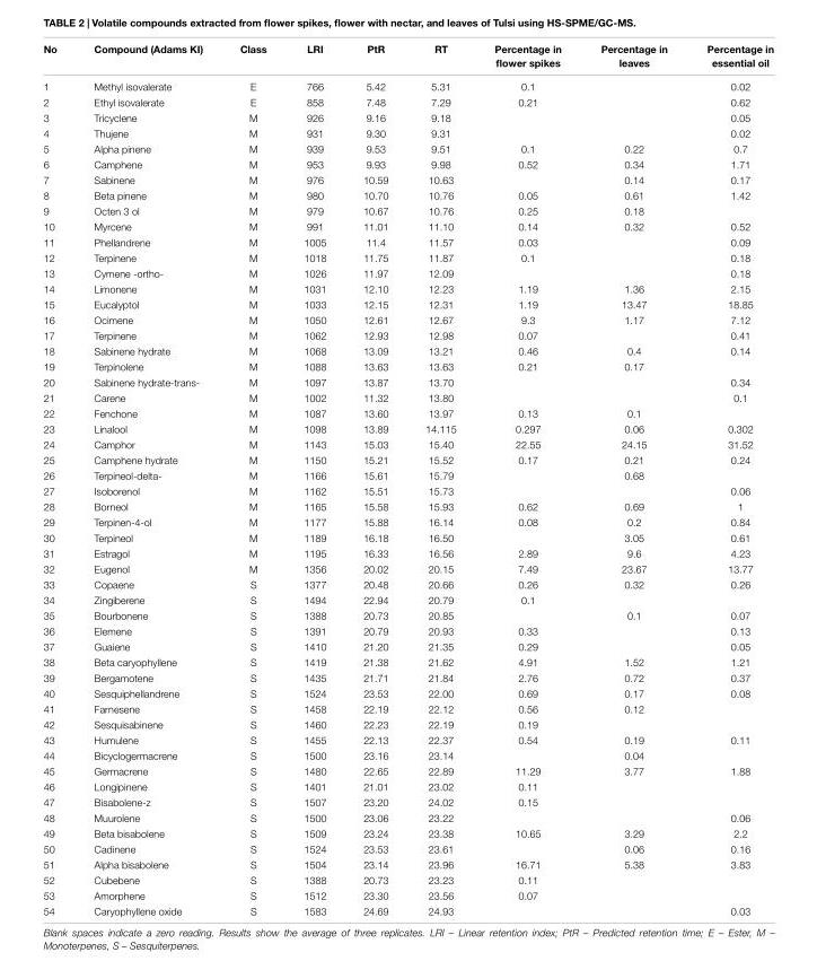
<table><thead><tr><td>No</td><td>Compound (Adams KI)</td><td>Class</td><td>LRI</td><td>PtR</td><td>RT</td><td>Percentage in flower spikes</td><td>Percentage in leaves</td><td>Percentage in essential oil</td></tr></thead><tbody><tr><td>1</td><td>Methyl isovalerate</td><td>E</td><td>766</td><td>5.42</td><td>5.31</td><td>0.1</td><td></td><td>0.02</td></tr><tr><td>2</td><td>Ethyl isovalerate</td><td>E</td><td>858</td><td>7.48</td><td>7.29</td><td>0.21</td><td></td><td>0.62</td></tr><tr><td>3</td><td>Tricyclene</td><td>M</td><td>926</td><td>9.16</td><td>9.18</td><td></td><td></td><td>0.05</td></tr><tr><td>4</td><td>Thujene</td><td>M</td><td>931</td><td>9.30</td><td>9.31</td><td></td><td></td><td>0.02</td></tr><tr><td>5</td><td>Alpha pinene</td><td>M</td><td>939</td><td>9.53</td><td>9.51</td><td>0.1</td><td>0.22</td><td>0.7</td></tr><tr><td>6</td><td>Camphene</td><td>M</td><td>953</td><td>9.93</td><td>9.98</td><td>0.52</td><td>0.34</td><td>1.71</td></tr><tr><td>7</td><td>Sabinene</td><td>M</td><td>976</td><td>10.59</td><td>10.63</td><td></td><td>0.14</td><td>0.17</td></tr><tr><td>8</td><td>Beta pinene</td><td>M</td><td>980</td><td>10.70</td><td>10.76</td><td>0.05</td><td>0.61</td><td>1.42</td></tr><tr><td>9</td><td>Octen 3 ol</td><td>M</td><td>979</td><td>10.67</td><td>10.76</td><td>0.25</td><td>0.18</td><td></td></tr><tr><td>10</td><td>Myrcene</td><td>M</td><td>991</td><td>11.01</td><td>11.10</td><td>0.14</td><td>0.32</td><td>0.52</td></tr><tr><td>11</td><td>Phellandrene</td><td>M</td><td>1005</td><td>11.4</td><td>11.57</td><td>0.03</td><td></td><td>0.09</td></tr><tr><td>12</td><td>Terpinene</td><td>M</td><td>1018</td><td>11.75</td><td>11.87</td><td>0.1</td><td></td><td>0.18</td></tr><tr><td>13</td><td>Cymene -ortho-</td><td>M</td><td>1026</td><td>11.97</td><td>12.09</td><td></td><td></td><td>0.18</td></tr><tr><td>14</td><td>Limonene</td><td>M</td><td>1031</td><td>12.10</td><td>12.23</td><td>1.19</td><td>1.36</td><td>2.15</td></tr><tr><td>15</td><td>Eucalyptol</td><td>M</td><td>1033</td><td>12.15</td><td>12.31</td><td>1.19</td><td>13.47</td><td>18.85</td></tr><tr><td>16</td><td>Ocimene</td><td>M</td><td>1050</td><td>12.61</td><td>12.67</td><td>9.3</td><td>1.17</td><td>7.12</td></tr><tr><td>17</td><td>Terpinene</td><td>M</td><td>1062</td><td>12.93</td><td>12.98</td><td>0.07</td><td></td><td>0.41</td></tr><tr><td>18</td><td>Sabinene hydrate</td><td>M</td><td>1068</td><td>13.09</td><td>13.21</td><td>0.46</td><td>0.4</td><td>0.14</td></tr><tr><td>19</td><td>Terpinolene</td><td>M</td><td>1088</td><td>13.63</td><td>13.63</td><td>0.21</td><td>0.17</td><td></td></tr><tr><td>20</td><td>Sabinene hydrate-trans-</td><td>M</td><td>1097</td><td>13.87</td><td>13.70</td><td></td><td></td><td>0.34</td></tr><tr><td>21</td><td>Carene</td><td>M</td><td>1002</td><td>11.32</td><td>13.80</td><td></td><td></td><td>0.1</td></tr><tr><td>22</td><td>Fenchone</td><td>M</td><td>1087</td><td>13.60</td><td>13.97</td><td>0.13</td><td>0.1</td><td></td></tr><tr><td>23</td><td>Linalool</td><td>M</td><td>1098</td><td>13.89</td><td>14.115</td><td>0.297</td><td>0.06</td><td>0.302</td></tr><tr><td>24</td><td>Camphor</td><td>M</td><td>1143</td><td>15.03</td><td>15.40</td><td>22.55</td><td>24.15</td><td>31.52</td></tr><tr><td>25</td><td>Camphene hydrate</td><td>M</td><td>1150</td><td>15.21</td><td>15.52</td><td>0.17</td><td>0.21</td><td>0.24</td></tr><tr><td>26</td><td>Terpineol-delta-</td><td>M</td><td>1166</td><td>15.61</td><td>15.79</td><td></td><td>0.68</td><td></td></tr><tr><td>27</td><td>Isoborenol</td><td>M</td><td>1162</td><td>15.51</td><td>15.73</td><td></td><td></td><td>0.06</td></tr><tr><td>28</td><td>Borneol</td><td>M</td><td>1165</td><td>15.58</td><td>15.93</td><td>0.62</td><td>0.69</td><td>1</td></tr><tr><td>29</td><td>Terpinen-4-ol</td><td>M</td><td>1177</td><td>15.88</td><td>16.14</td><td>0.08</td><td>0.2</td><td>0.84</td></tr><tr><td>30</td><td>Terpineol</td><td>M</td><td>1189</td><td>16.18</td><td>16.50</td><td></td><td>3.05</td><td>0.61</td></tr><tr><td>31</td><td>Estragol</td><td>M</td><td>1195</td><td>16.33</td><td>16.56</td><td>2.89</td><td>9.6</td><td>4.23</td></tr><tr><td>32</td><td>Eugenol</td><td>M</td><td>1356</td><td>20.02</td><td>20.15</td><td>7.49</td><td>23.67</td><td>13.77</td></tr><tr><td>33</td><td>Copaene</td><td>S</td><td>1377</td><td>20.48</td><td>20.66</td><td>0.26</td><td>0.32</td><td>0.26</td></tr><tr><td>34</td><td>Zingiberene</td><td>S</td><td>1494</td><td>22.94</td><td>20.79</td><td>0.1</td><td></td><td></td></tr><tr><td>35</td><td>Bourbonene</td><td>S</td><td>1388</td><td>20.73</td><td>20.85</td><td></td><td>0.1</td><td>0.07</td></tr><tr><td>36</td><td>Elemene</td><td>S</td><td>1391</td><td>20.79</td><td>20.93</td><td>0.33</td><td></td><td>0.13</td></tr><tr><td>37</td><td>Guaiene</td><td>S</td><td>1410</td><td>21.20</td><td>21.35</td><td>0.29</td><td></td><td>0.05</td></tr><tr><td>38</td><td>Beta caryophyllene</td><td>S</td><td>1419</td><td>21.38</td><td>21.62</td><td>4.91</td><td>1.52</td><td>1.21</td></tr><tr><td>39</td><td>Bergamotene</td><td>S</td><td>1435</td><td>21.71</td><td>21.84</td><td>2.76</td><td>0.72</td><td>0.37</td></tr><tr><td>40</td><td>Sesquiphellandrene</td><td>S</td><td>1524</td><td>23.53</td><td>22.00</td><td>0.69</td><td>0.17</td><td>0.08</td></tr><tr><td>41</td><td>Farnesene</td><td>S</td><td>1458</td><td>22.19</td><td>22.12</td><td>0.56</td><td>0.12</td><td></td></tr><tr><td>42</td><td>Sesquisabinene</td><td>S</td><td>1460</td><td>22.23</td><td>22.19</td><td>0.19</td><td></td><td></td></tr><tr><td>43</td><td>Humulene</td><td>S</td><td>1455</td><td>22.13</td><td>22.37</td><td>0.54</td><td>0.19</td><td>0.11</td></tr><tr><td>44</td><td>Bicyclogermacrene</td><td>S</td><td>1500</td><td>23.16</td><td>23.14</td><td></td><td>0.04</td><td></td></tr><tr><td>45</td><td>Germacrene</td><td>S</td><td>1480</td><td>22.65</td><td>22.89</td><td>11.29</td><td>3.77</td><td>1.88</td></tr><tr><td>46</td><td>Longipinene</td><td>S</td><td>1401</td><td>21.01</td><td>23.02</td><td>0.11</td><td></td><td></td></tr><tr><td>47</td><td>Bisabolene-z</td><td>S</td><td>1507</td><td>23.20</td><td>24.02</td><td>0.15</td><td></td><td></td></tr><tr><td>48</td><td>Muurolene</td><td>S</td><td>1500</td><td>23.06</td><td>23.22</td><td></td><td></td><td>0.06</td></tr><tr><td>49</td><td>Beta bisabolene</td><td>S</td><td>1509</td><td>23.24</td><td>23.38</td><td>10.65</td><td>3.29</td><td>2.2</td></tr><tr><td>50</td><td>Cadinene</td><td>S</td><td>1524</td><td>23.53</td><td>23.61</td><td></td><td>0.06</td><td>0.16</td></tr><tr><td>51</td><td>Alpha bisabolene</td><td>S</td><td>1504</td><td>23.14</td><td>23.96</td><td>16.71</td><td>5.38</td><td>3.83</td></tr><tr><td>52</td><td>Cubebene</td><td>S</td><td>1388</td><td>20.73</td><td>23.23</td><td>0.11</td><td></td><td></td></tr><tr><td>53</td><td>Amorphene</td><td>S</td><td>1512</td><td>23.30</td><td>23.56</td><td>0.07</td><td></td><td></td></tr><tr><td>54</td><td>Caryophyllene oxide</td><td>S</td><td>1583</td><td>24.69</td><td>24.93</td><td></td><td></td><td>0.03</td></tr></tbody></table>